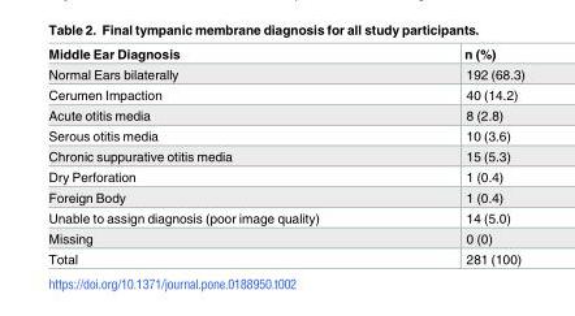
<table><thead><tr><td>Middle Ear Diagnosis</td><td>n (%)</td></tr></thead><tbody><tr><td>Normal Ears bilaterally</td><td>192 (68.3)</td></tr><tr><td>Cerumen Impaction</td><td>40 (14.2)</td></tr><tr><td>Acute otitis media</td><td>8 (2.8)</td></tr><tr><td>Serous otitis media</td><td>10 (3.6)</td></tr><tr><td>Chronic suppurative otitis media</td><td>15 (5.3)</td></tr><tr><td>Dry Perforation</td><td>1 (0.4)</td></tr><tr><td>Foreign Body</td><td>1 (0.4)</td></tr><tr><td>Unable to assign diagnosis (poor image quality)</td><td>14 (5.0)</td></tr><tr><td>Missing</td><td>0 (0)</td></tr><tr><td>Total</td><td>281 (100)</td></tr></tbody></table>